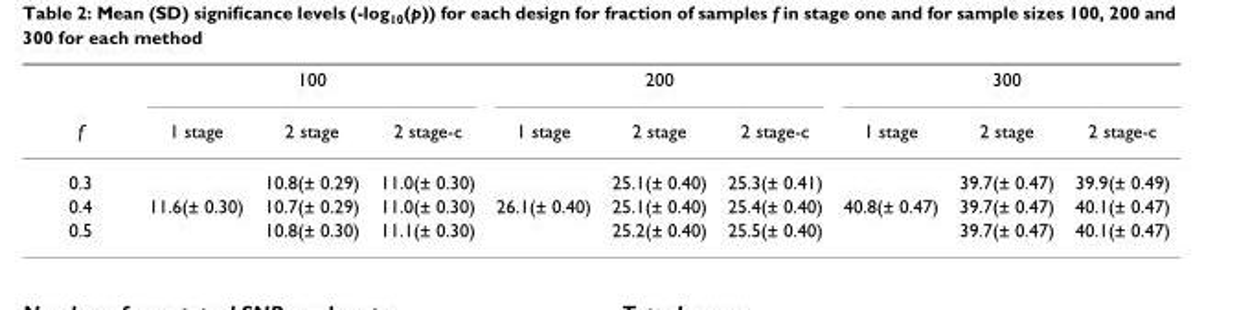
<table><thead><tr><td rowspan="2">f</td><td colspan="3">100</td><td colspan="3">200</td><td colspan="3">300</td></tr><tr><td>1 stage</td><td>2 stage</td><td>2 stage-c</td><td>1 stage</td><td>2 stage</td><td>2 stage-c</td><td>1 stage</td><td>2 stage</td><td>2 stage-c</td></tr></thead><tbody><tr><td>0.3</td><td></td><td>10.8(± 0.29)</td><td>11.0(± 0.30)</td><td></td><td>25.1(± 0.40)</td><td>25.3(± 0.41)</td><td></td><td>39.7(± 0.47)</td><td>39.9(± 0.49)</td></tr><tr><td>0.4</td><td>11.6(± 0.30)</td><td>10.7(± 0.29)</td><td>11.0(± 0.30)</td><td>26.1(± 0.40)</td><td>25.1(± 0.40)</td><td>25.4(± 0.40)</td><td>40.8(± 0.47)</td><td>39.7(± 0.47)</td><td>40.1(± 0.47)</td></tr><tr><td>0.5</td><td></td><td>10.8(± 0.30)</td><td>11.1(± 0.30)</td><td></td><td>25.2(± 0.40)</td><td>25.5(± 0.40)</td><td></td><td>39.7(± 0.47)</td><td>40.1(± 0.47)</td></tr></tbody></table>